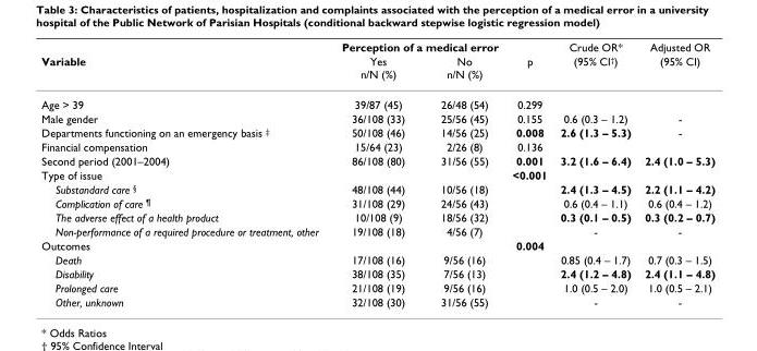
<table><thead><tr><td rowspan="2">Variable</td><td colspan="2">Perception of a medical error</td><td rowspan="2">p</td><td rowspan="2">Crude OR* (95% CI<sup>†</sup>)</td><td rowspan="2">Adjusted OR (95% CI)</td></tr><tr><td>Yes n/N (%)</td><td>No n/N (%)</td></tr></thead><tbody><tr><td>Age &gt; 39</td><td>39/87 (45)</td><td>26/48 (54)</td><td>0.299</td><td></td><td></td></tr><tr><td>Male gender</td><td>36/108 (33)</td><td>25/56 (45)</td><td>0.155</td><td>0.6 (0.3 – 1.2)</td><td>-</td></tr><tr><td>Departments functioning on an emergency basis <sup>‡</sup></td><td>50/108 (46)</td><td>14/56 (25)</td><td>0.008</td><td>2.6 (1.3 – 5.3)</td><td>-</td></tr><tr><td>Financial compensation</td><td>15/64 (23)</td><td>2/26 (8)</td><td>0.136</td><td></td><td></td></tr><tr><td>Second period (2001–2004)</td><td>86/108 (80)</td><td>31/56 (55)</td><td>0.001</td><td>3.2 (1.6 – 6.4)</td><td>2.4 (1.0 – 5.3)</td></tr><tr><td>Type of issue</td><td></td><td></td><td>&lt;0.001</td><td></td><td></td></tr><tr><td>Substandard care <sup>§</sup></td><td>48/108 (44)</td><td>10/56 (18)</td><td></td><td>2.4 (1.3 – 4.5)</td><td>2.2 (1.1 – 4.2)</td></tr><tr><td>Complication of care <sup>¶</sup></td><td>31/108 (29)</td><td>24/56 (43)</td><td></td><td>0.6 (0.4 – 1.1)</td><td>0.6 (0.4 – 1.2)</td></tr><tr><td>The adverse effect of a health product</td><td>10/108 (9)</td><td>18/56 (32)</td><td></td><td>0.3 (0.1 – 0.5)</td><td>0.3 (0.2 – 0.7)</td></tr><tr><td>Non-performance of a required procedure or treatment, other</td><td>19/108 (18)</td><td>4/56 (7)</td><td></td><td>-</td><td>-</td></tr><tr><td>Outcomes</td><td></td><td></td><td>0.004</td><td></td><td></td></tr><tr><td>Death</td><td>17/108 (16)</td><td>9/56 (16)</td><td></td><td>0.85 (0.4 – 1.7)</td><td>0.7 (0.3 – 1.5)</td></tr><tr><td>Disability</td><td>38/108 (35)</td><td>7/56 (13)</td><td></td><td>2.4 (1.2 – 4.8)</td><td>2.4 (1.1 – 4.8)</td></tr><tr><td>Prolonged care</td><td>21/108 (19)</td><td>9/56 (16)</td><td></td><td>1.0 (0.5 – 2.0)</td><td>1.0 (0.5 – 2.1)</td></tr><tr><td>Other, unknown</td><td>32/108 (30)</td><td>31/56 (55)</td><td></td><td>-</td><td>-</td></tr></tbody></table>